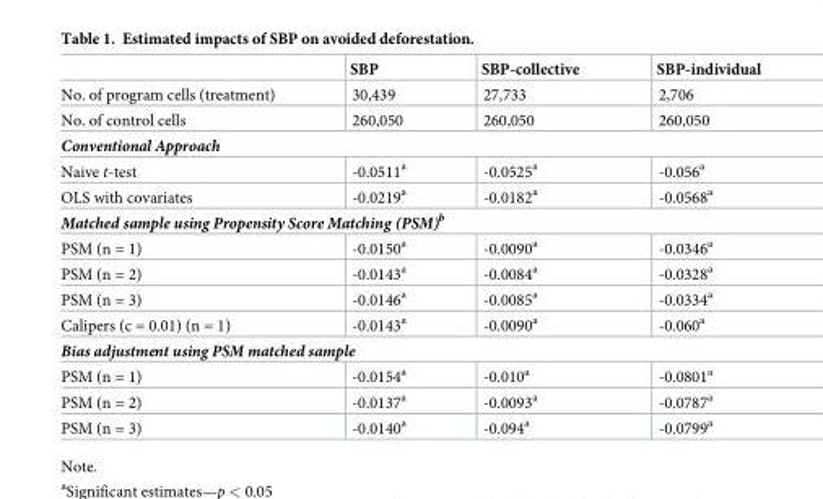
<table><thead><tr><td></td><td>SBP</td><td>SBP-collective</td><td>SBP-individual</td></tr></thead><tbody><tr><td>No. of program cells (treatment)</td><td>30,439</td><td>27,733</td><td>2,706</td></tr><tr><td>No. of control cells</td><td>260,050</td><td>260,050</td><td>260,050</td></tr><tr><td colspan="4">Conventional Approach</td></tr><tr><td>Naive t-test</td><td>-0.0511<sup>a</sup></td><td>-0.0525<sup>a</sup></td><td>-0.056<sup>a</sup></td></tr><tr><td>OLS with covariates</td><td>-0.0219<sup>a</sup></td><td>-0.0182<sup>a</sup></td><td>-0.0568<sup>a</sup></td></tr><tr><td colspan="4">Matched sample using Propensity Score Matching (PSM)<sup>b</sup></td></tr><tr><td>PSM (n = 1)</td><td>-0.0150<sup>a</sup></td><td>-0.0090<sup>a</sup></td><td>-0.0346<sup>a</sup></td></tr><tr><td>PSM (n = 2)</td><td>-0.0143<sup>a</sup></td><td>-0.0084<sup>a</sup></td><td>-0.0328<sup>a</sup></td></tr><tr><td>PSM (n = 3)</td><td>-0.0146<sup>a</sup></td><td>-0.0085<sup>a</sup></td><td>-0.0334<sup>a</sup></td></tr><tr><td>Calipers (c = 0.01) (n = 1)</td><td>-0.0143<sup>a</sup></td><td>-0.0090<sup>a</sup></td><td>-0.060<sup>a</sup></td></tr><tr><td colspan="4">Bias adjustment using PSM matched sample</td></tr><tr><td>PSM (n = 1)</td><td>-0.0154<sup>a</sup></td><td>-0.010<sup>a</sup></td><td>-0.0801<sup>a</sup></td></tr><tr><td>PSM (n = 2)</td><td>-0.0137<sup>a</sup></td><td>-0.0093<sup>a</sup></td><td>-0.0787<sup>a</sup></td></tr><tr><td>PSM (n = 3)</td><td>-0.0140<sup>a</sup></td><td>-0.094<sup>a</sup></td><td>-0.0799<sup>a</sup></td></tr></tbody></table>